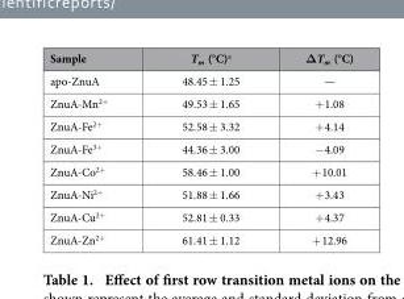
<table><thead><tr><td>Sample</td><td>T<sub>m</sub> (°C)<sup>a</sup></td><td>ΔT<sub>m</sub> (°C)</td></tr></thead><tbody><tr><td>apo-ZnuA</td><td>48.45 ± 1.25</td><td>—</td></tr><tr><td>ZnuA-Mn<sup>2+</sup></td><td>49.53 ± 1.65</td><td>+ 1.08</td></tr><tr><td>ZnuA-Fe<sup>2+</sup></td><td>52.58 ± 3.32</td><td>+ 4.14</td></tr><tr><td>ZnuA-Fe<sup>3+</sup></td><td>44.36 ± 3.00</td><td>− 4.09</td></tr><tr><td>ZnuA-Co<sup>2+</sup></td><td>58.46 ± 1.00</td><td>+ 10.01</td></tr><tr><td>ZnuA-Ni<sup>2+</sup></td><td>51.88 ± 1.66</td><td>+ 3.43</td></tr><tr><td>ZnuA-Cu<sup>2+</sup></td><td>52.81 ± 0.33</td><td>+ 4.37</td></tr><tr><td>ZnuA-Zn<sup>2+</sup></td><td>61.41 ± 1.12</td><td>+ 12.96</td></tr></tbody></table>